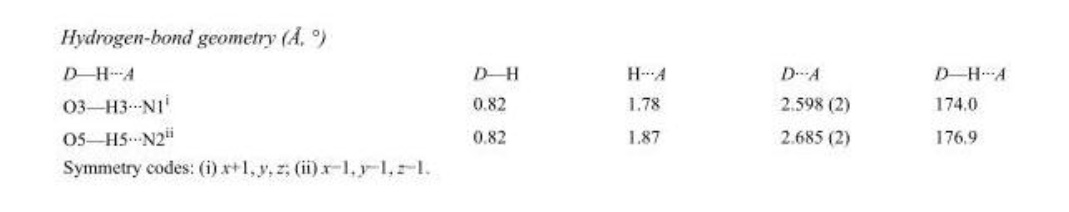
<table><tbody><tr><td>D—H···A</td><td>D—H</td><td>H···A</td><td>D···A</td><td>D—H···A</td></tr><tr><td>O3—H3···N1<sup>i</sup></td><td>0.82</td><td>1.78</td><td>2.598 (2)</td><td>174.0</td></tr><tr><td>O5—H5···N2<sup>ii</sup></td><td>0.82</td><td>1.87</td><td>2.685 (2)</td><td>176.9</td></tr></tbody></table>